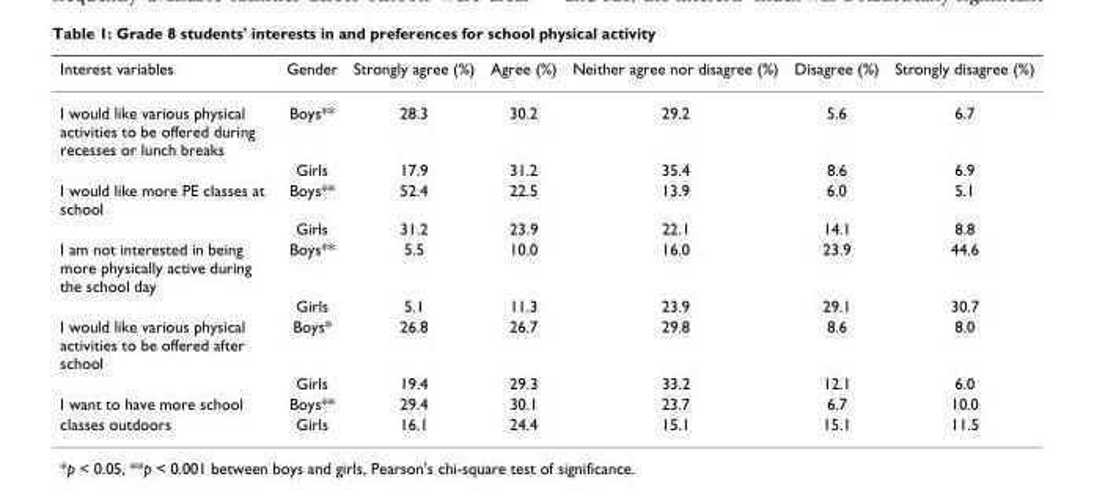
<table><thead><tr><td>Interest variables</td><td>Gender</td><td>Strongly agree (%)</td><td>Agree (%)</td><td>Neither agree nor disagree (%)</td><td>Disagree (%)</td><td>Strongly disagree (%)</td></tr></thead><tbody><tr><td rowspan="2">I would like various physical activities to be offered during recesses or lunch breaks</td><td>Boys**</td><td>28.3</td><td>30.2</td><td>29.2</td><td>5.6</td><td>6.7</td></tr><tr><td>Girls</td><td>17.9</td><td>31.2</td><td>35.4</td><td>8.6</td><td>6.9</td></tr><tr><td rowspan="2">I would like more PE classes at school</td><td>Boys**</td><td>52.4</td><td>22.5</td><td>13.9</td><td>6.0</td><td>5.1</td></tr><tr><td>Girls</td><td>31.2</td><td>23.9</td><td>22.1</td><td>14.1</td><td>8.8</td></tr><tr><td rowspan="2">I am not interested in being more physically active during the school day</td><td>Boys**</td><td>5.5</td><td>10.0</td><td>16.0</td><td>23.9</td><td>44.6</td></tr><tr><td>Girls</td><td>5.1</td><td>11.3</td><td>23.9</td><td>29.1</td><td>30.7</td></tr><tr><td rowspan="2">I would like various physical activities to be offered after school</td><td>Boys*</td><td>26.8</td><td>26.7</td><td>29.8</td><td>8.6</td><td>8.0</td></tr><tr><td>Girls</td><td>19.4</td><td>29.3</td><td>33.2</td><td>12.1</td><td>6.0</td></tr><tr><td>I want to have more school</td><td>Boys**</td><td>29.4</td><td>30.1</td><td>23.7</td><td>6.7</td><td>10.0</td></tr><tr><td>classes outdoors</td><td>Girls</td><td>16.1</td><td>24.4</td><td>15.1</td><td>15.1</td><td>11.5</td></tr></tbody></table>